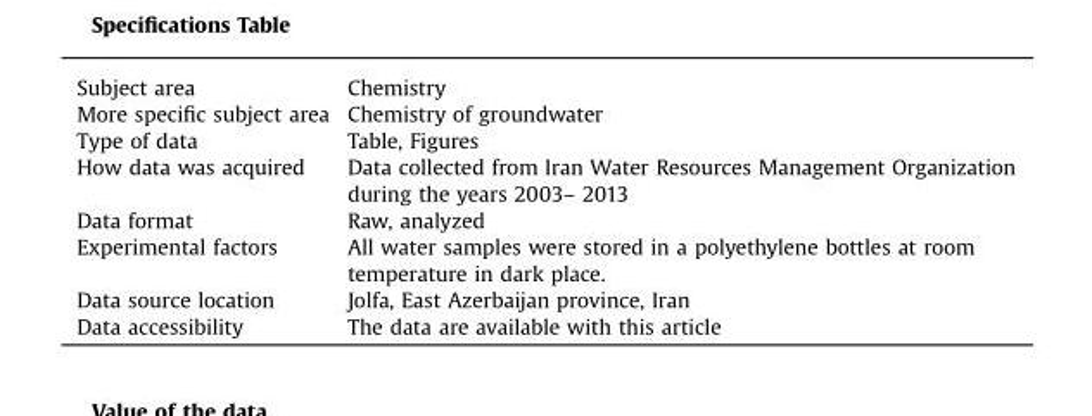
<table><thead><tr><td>Subject area</td><td>Chemistry</td></tr></thead><tbody><tr><td>More specific subject area</td><td>Chemistry of groundwater</td></tr><tr><td>Type of data</td><td>Table, Figures</td></tr><tr><td>How data was acquired</td><td>Data collected from Iran Water Resources Management Organization during the years 2003– 2013</td></tr><tr><td>Data format</td><td>Raw, analyzed</td></tr><tr><td>Experimental factors</td><td>All water samples were stored in a polyethylene bottles at room temperature in dark place.</td></tr><tr><td>Data source location</td><td>Jolfa, East Azerbaijan province, Iran</td></tr><tr><td>Data accessibility</td><td>The data are available with this article</td></tr></tbody></table>